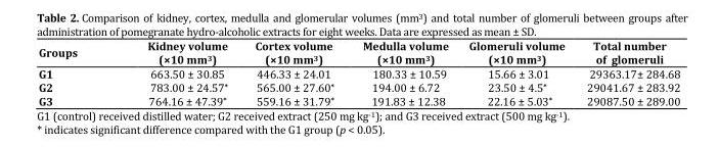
<table><thead><tr><td>Groups</td><td>Kidney volume (×10 mm<sup>3</sup>)</td><td>Cortex volume (×10 mm<sup>3</sup>)</td><td>Medulla volume (×10 mm<sup>3</sup>)</td><td>Glomeruli volume (×10 mm<sup>3</sup>)</td><td>Total number of glomeruli</td></tr></thead><tbody><tr><td>G1</td><td>663.50 ± 30.85</td><td>446.33 ± 24.01</td><td>180.33 ± 10.59</td><td>15.66 ± 3.01</td><td>29363.17± 284.68</td></tr><tr><td>G2</td><td>783.00 ± 24.57*</td><td>565.00 ± 27.60*</td><td>194.00 ± 6.72</td><td>23.50 ± 4.5*</td><td>29041.67 ± 283.92</td></tr><tr><td>G3</td><td>764.16 ± 47.39*</td><td>559.16 ± 31.79*</td><td>191.83 ± 12.38</td><td>22.16 ± 5.03*</td><td>29087.50 ± 289.00</td></tr></tbody></table>